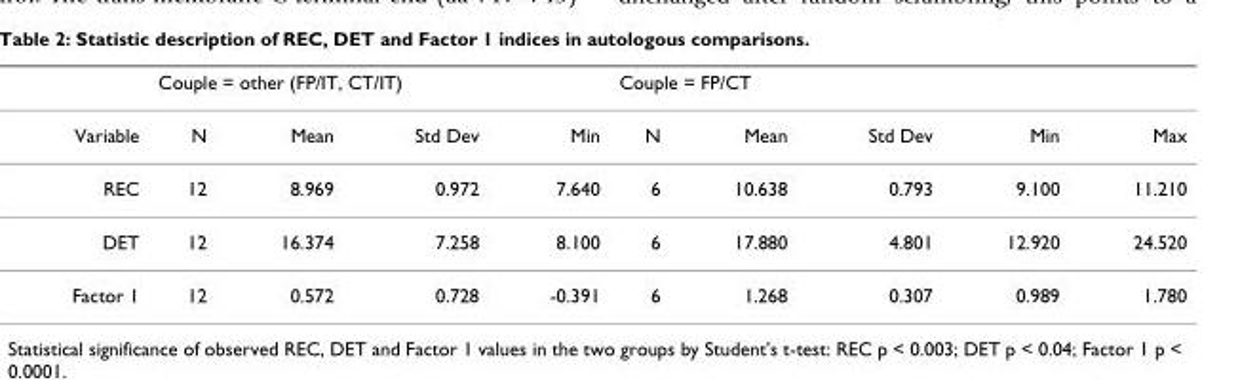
<table><thead><tr><td rowspan="2">Variable</td><td colspan="4">Couple = other (FP/IT, CT/IT)</td><td colspan="5">Couple = FP/CT</td></tr><tr><td>N</td><td>Mean</td><td>Std Dev</td><td>Min</td><td>N</td><td>Mean</td><td>Std Dev</td><td>Min</td><td>Max</td></tr></thead><tbody><tr><td>REC</td><td>12</td><td>8.969</td><td>0.972</td><td>7.640</td><td>6</td><td>10.638</td><td>0.793</td><td>9.100</td><td>11.210</td></tr><tr><td>DET</td><td>12</td><td>16.374</td><td>7.258</td><td>8.100</td><td>6</td><td>17.880</td><td>4.801</td><td>12.920</td><td>24.520</td></tr><tr><td>Factor 1</td><td>12</td><td>0.572</td><td>0.728</td><td>-0.391</td><td>6</td><td>1.268</td><td>0.307</td><td>0.989</td><td>1.780</td></tr></tbody></table>